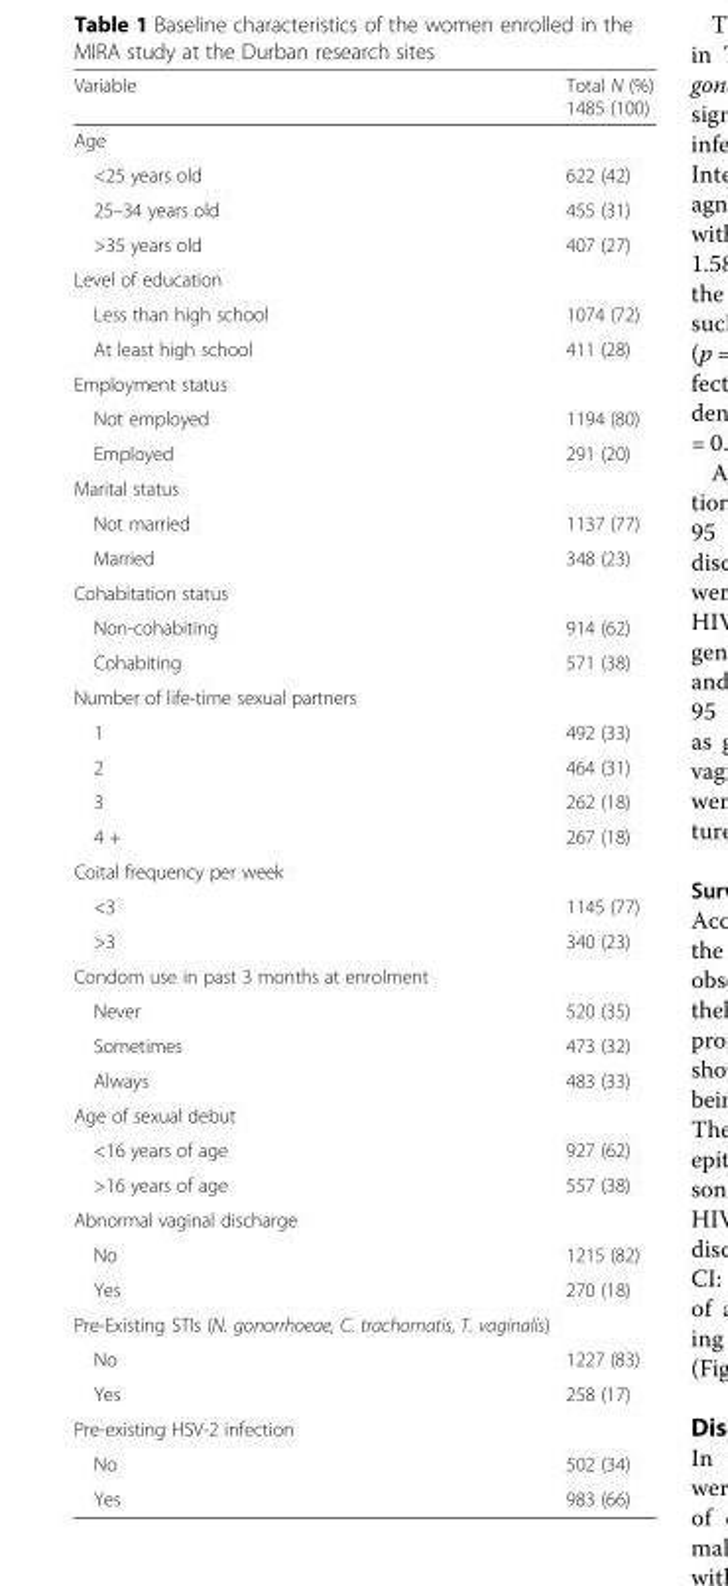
<table><thead><tr><td>Variable</td><td>Total N (%) 1485 (100)</td></tr></thead><tbody><tr><td colspan="2">Age</td></tr><tr><td>&lt;25 years old</td><td>622 (42)</td></tr><tr><td>25–34 years old</td><td>455 (31)</td></tr><tr><td>&gt;35 years old</td><td>407 (27)</td></tr><tr><td colspan="2">Level of education</td></tr><tr><td>Less than high school</td><td>1074 (72)</td></tr><tr><td>At least high school</td><td>411 (28)</td></tr><tr><td colspan="2">Employment status</td></tr><tr><td>Not employed</td><td>1194 (80)</td></tr><tr><td>Employed</td><td>291 (20)</td></tr><tr><td colspan="2">Marital status</td></tr><tr><td>Not married</td><td>1137 (77)</td></tr><tr><td>Married</td><td>348 (23)</td></tr><tr><td colspan="2">Cohabitation status</td></tr><tr><td>Non-cohabiting</td><td>914 (62)</td></tr><tr><td>Cohabiting</td><td>571 (38)</td></tr><tr><td colspan="2">Number of life-time sexual partners</td></tr><tr><td>1</td><td>492 (33)</td></tr><tr><td>2</td><td>464 (31)</td></tr><tr><td>3</td><td>262 (18)</td></tr><tr><td>4 +</td><td>267 (18)</td></tr><tr><td colspan="2">Coital frequency per week</td></tr><tr><td>&lt;3</td><td>1145 (77)</td></tr><tr><td>&gt;3</td><td>340 (23)</td></tr><tr><td colspan="2">Condom use in past 3 months at enrolment</td></tr><tr><td>Never</td><td>520 (35)</td></tr><tr><td>Sometimes</td><td>473 (32)</td></tr><tr><td>Always</td><td>483 (33)</td></tr><tr><td colspan="2">Age of sexual debut</td></tr><tr><td>&lt;16 years of age</td><td>927 (62)</td></tr><tr><td>&gt;16 years of age</td><td>557 (38)</td></tr><tr><td colspan="2">Abnormal vaginal discharge</td></tr><tr><td>No</td><td>1215 (82)</td></tr><tr><td>Yes</td><td>270 (18)</td></tr><tr><td colspan="2">Pre-Existing STIs (N. gonorrhoeae, C. trachomatis, T. vaginalis)</td></tr><tr><td>No</td><td>1227 (83)</td></tr><tr><td>Yes</td><td>258 (17)</td></tr><tr><td colspan="2">Pre-existing HSV-2 infection</td></tr><tr><td>No</td><td>502 (34)</td></tr><tr><td>Yes</td><td>983 (66)</td></tr></tbody></table>